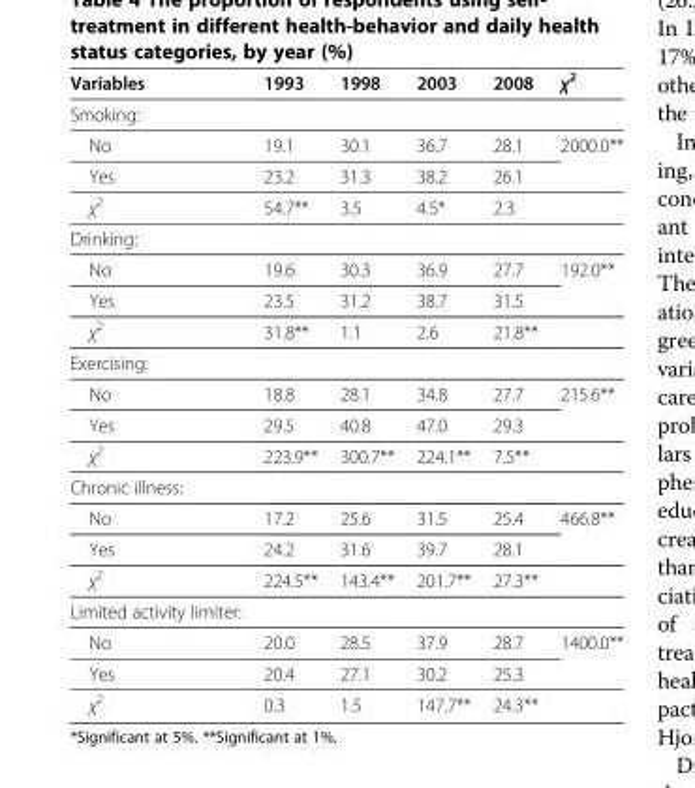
<table><thead><tr><td>Variables</td><td>1993</td><td>1998</td><td>2003</td><td>2008</td><td>χ<sup>2</sup></td></tr></thead><tbody><tr><td colspan="6">Smoking:</td></tr><tr><td>No</td><td>19.1</td><td>30.1</td><td>36.7</td><td>28.1</td><td rowspan="2">2000.0**</td></tr><tr><td>Yes</td><td>23.2</td><td>31.3</td><td>38.2</td><td>26.1</td></tr><tr><td>χ<sup>2</sup></td><td>54.7**</td><td>3.5</td><td>4.5*</td><td>2.3</td><td></td></tr><tr><td colspan="6">Drinking:</td></tr><tr><td>No</td><td>19.6</td><td>30.3</td><td>36.9</td><td>27.7</td><td rowspan="2">192.0**</td></tr><tr><td>Yes</td><td>23.5</td><td>31.2</td><td>38.7</td><td>31.5</td></tr><tr><td>χ<sup>2</sup></td><td>31.8**</td><td>1.1</td><td>2.6</td><td>21.8**</td><td></td></tr><tr><td colspan="6">Exercising:</td></tr><tr><td>No</td><td>18.8</td><td>28.1</td><td>34.8</td><td>27.7</td><td rowspan="2">215.6**</td></tr><tr><td>Yes</td><td>29.5</td><td>40.8</td><td>47.0</td><td>29.3</td></tr><tr><td>χ<sup>2</sup></td><td>223.9**</td><td>300.7**</td><td>224.1**</td><td>7.5**</td><td></td></tr><tr><td colspan="6">Chronic illness:</td></tr><tr><td>No</td><td>17.2</td><td>25.6</td><td>31.5</td><td>25.4</td><td rowspan="2">466.8**</td></tr><tr><td>Yes</td><td>24.2</td><td>31.6</td><td>39.7</td><td>28.1</td></tr><tr><td>χ<sup>2</sup></td><td>224.5**</td><td>143.4**</td><td>201.7**</td><td>27.3**</td><td></td></tr><tr><td colspan="6">Limited activity limiter:</td></tr><tr><td>No</td><td>20.0</td><td>28.5</td><td>37.9</td><td>28.7</td><td rowspan="2">1400.0**</td></tr><tr><td>Yes</td><td>20.4</td><td>27.1</td><td>30.2</td><td>25.3</td></tr><tr><td>χ<sup>2</sup></td><td>0.3</td><td>1.5</td><td>147.7**</td><td>24.3**</td><td></td></tr></tbody></table>